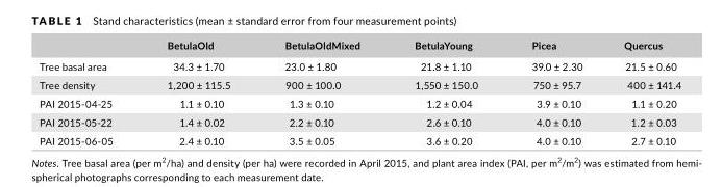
<table><thead><tr><td></td><td>BetulaOld</td><td>BetulaOldMixed</td><td>BetulaYoung</td><td>Picea</td><td>Quercus</td></tr></thead><tbody><tr><td>Tree basal area</td><td>34.3 ± 1.70</td><td>23.0 ± 1.80</td><td>21.8 ± 1.10</td><td>39.0 ± 2.30</td><td>21.5 ± 0.60</td></tr><tr><td>Tree density</td><td>1,200 ± 115.5</td><td>900 ± 100.0</td><td>1,550 ± 150.0</td><td>750 ± 95.7</td><td>400 ± 141.4</td></tr><tr><td>PAI 2015- 04- 25</td><td>1.1 ± 0.10</td><td>1.3 ± 0.10</td><td>1.2 ± 0.04</td><td>3.9 ± 0.10</td><td>1.1 ± 0.20</td></tr><tr><td>PAI 2015- 05- 22</td><td>1.4 ± 0.02</td><td>2.2 ± 0.10</td><td>2.6 ± 0.10</td><td>4.0 ± 0.10</td><td>1.2 ± 0.03</td></tr><tr><td>PAI 2015- 06- 05</td><td>2.4 ± 0.10</td><td>3.5 ± 0.05</td><td>3.6 ± 0.20</td><td>4.0 ± 0.10</td><td>2.7 ± 0.10</td></tr></tbody></table>